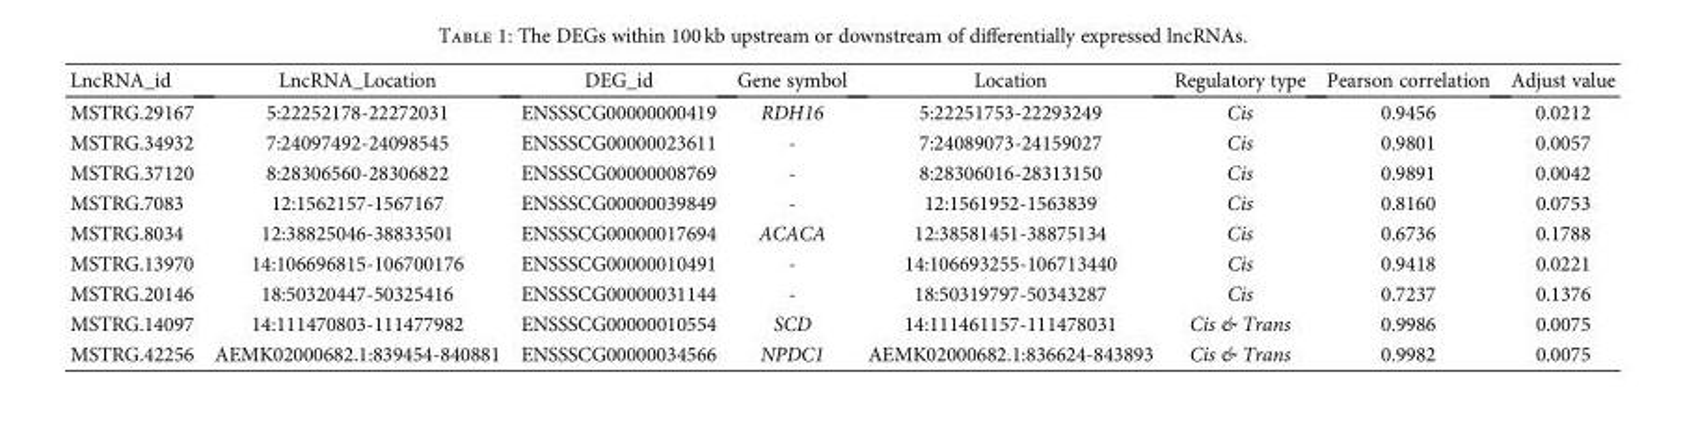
<table><thead><tr><td>LncRNA_id</td><td>LncRNA_Location</td><td>DEG_id</td><td>Gene symbol</td><td>Location</td><td>Regulatory type</td><td>Pearson correlation</td><td>Adjust value</td></tr></thead><tbody><tr><td>MSTRG.29167</td><td>5:22252178-22272031</td><td>ENSSSCG00000000419</td><td>RDH16</td><td>5:22251753-22293249</td><td>Cis</td><td>0.9456</td><td>0.0212</td></tr><tr><td>MSTRG.34932</td><td>7:24097492-24098545</td><td>ENSSSCG00000023611</td><td>-</td><td>7:24089073-24159027</td><td>Cis</td><td>0.9801</td><td>0.0057</td></tr><tr><td>MSTRG.37120</td><td>8:28306560-28306822</td><td>ENSSSCG00000008769</td><td>-</td><td>8:28306016-28313150</td><td>Cis</td><td>0.9891</td><td>0.0042</td></tr><tr><td>MSTRG.7083</td><td>12:1562157-1567167</td><td>ENSSSCG00000039849</td><td>-</td><td>12:1561952-1563839</td><td>Cis</td><td>0.8160</td><td>0.0753</td></tr><tr><td>MSTRG.8034</td><td>12:38825046-38833501</td><td>ENSSSCG00000017694</td><td>ACACA</td><td>12:38581451-38875134</td><td>Cis</td><td>0.6736</td><td>0.1788</td></tr><tr><td>MSTRG.13970</td><td>14:106696815-106700176</td><td>ENSSSCG00000010491</td><td>-</td><td>14:106693255-106713440</td><td>Cis</td><td>0.9418</td><td>0.0221</td></tr><tr><td>MSTRG.20146</td><td>18:50320447-50325416</td><td>ENSSSCG00000031144</td><td>-</td><td>18:50319797-50343287</td><td>Cis</td><td>0.7237</td><td>0.1376</td></tr><tr><td>MSTRG.14097</td><td>14:111470803-111477982</td><td>ENSSSCG00000010554</td><td>SCD</td><td>14:111461157-111478031</td><td>Cis &amp; Trans</td><td>0.9986</td><td>0.0075</td></tr><tr><td>MSTRG.42256</td><td>AEMK02000682.1:839454-840881</td><td>ENSSSCG00000034566</td><td>NPDC1</td><td>AEMK02000682.1:836624-843893</td><td>Cis &amp; Trans</td><td>0.9982</td><td>0.0075</td></tr></tbody></table>